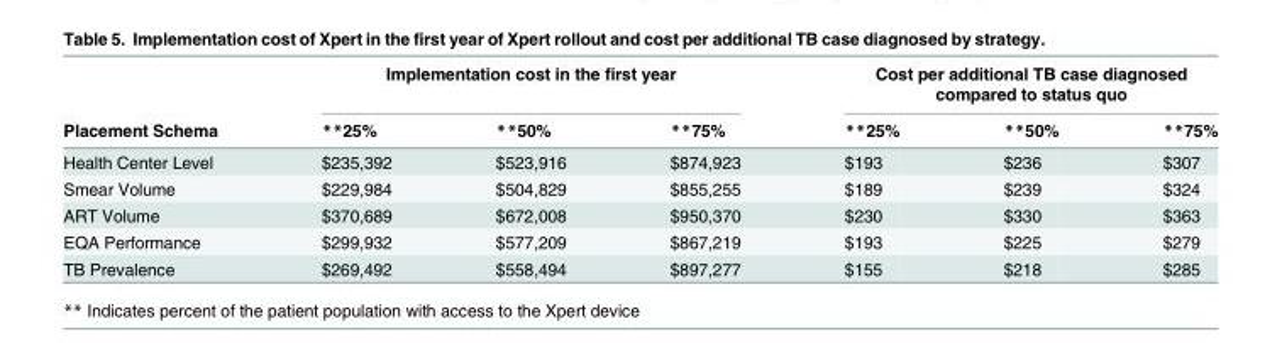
<table><thead><tr><td rowspan="2">Placement Schema</td><td colspan="3">Implementation cost in the first year</td><td colspan="3">Cost per additional TB case diagnosed compared to status quo</td></tr><tr><td>**25%</td><td>**50%</td><td>**75%</td><td>**25%</td><td>**50%</td><td>**75%</td></tr></thead><tbody><tr><td>Health Center Level</td><td>$235,392</td><td>$523,916</td><td>$874,923</td><td>$193</td><td>$236</td><td>$307</td></tr><tr><td>Smear Volume</td><td>$229,984</td><td>$504,829</td><td>$855,255</td><td>$189</td><td>$239</td><td>$324</td></tr><tr><td>ART Volume</td><td>$370,689</td><td>$672,008</td><td>$950,370</td><td>$230</td><td>$330</td><td>$363</td></tr><tr><td>EQA Performance</td><td>$299,932</td><td>$577,209</td><td>$867,219</td><td>$193</td><td>$225</td><td>$279</td></tr><tr><td>TB Prevalence</td><td>$269,492</td><td>$558,494</td><td>$897,277</td><td>$155</td><td>$218</td><td>$285</td></tr></tbody></table>